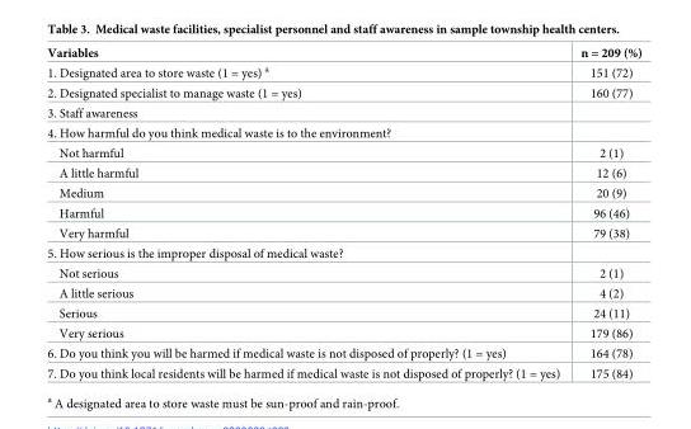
<table><thead><tr><td>Variables</td><td>n = 209 (%)</td></tr></thead><tbody><tr><td>1. Designated area to store waste (1 = yes) <sup>a</sup></td><td>151 (72)</td></tr><tr><td>2. Designated specialist to manage waste (1 = yes)</td><td>160 (77)</td></tr><tr><td colspan="2">3. Staff awareness</td></tr><tr><td colspan="2">4. How harmful do you think medical waste is to the environment?</td></tr><tr><td>Not harmful</td><td>2 (1)</td></tr><tr><td>A little harmful</td><td>12 (6)</td></tr><tr><td>Medium</td><td>20 (9)</td></tr><tr><td>Harmful</td><td>96 (46)</td></tr><tr><td>Very harmful</td><td>79 (38)</td></tr><tr><td colspan="2">5. How serious is the improper disposal of medical waste?</td></tr><tr><td>Not serious</td><td>2 (1)</td></tr><tr><td>A little serious</td><td>4 (2)</td></tr><tr><td>Serious</td><td>24 (11)</td></tr><tr><td>Very serious</td><td>179 (86)</td></tr><tr><td>6. Do you think you will be harmed if medical waste is not disposed of properly? (1 = yes)</td><td>164 (78)</td></tr><tr><td>7. Do you think local residents will be harmed if medical waste is not disposed of properly? (1 = yes)</td><td>175 (84)</td></tr></tbody></table>